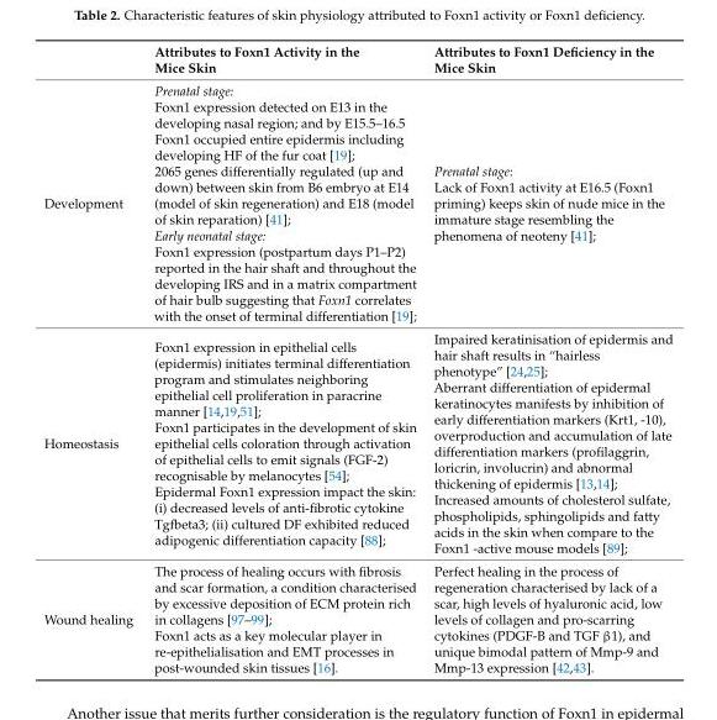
<table><thead><tr><td></td><td>Attributes to Foxn1 Activity in the Mice Skin</td><td>Attributes to Foxn1 Deficiency in the Mice Skin</td></tr></thead><tbody><tr><td>Development</td><td>Prenatal stage: Foxn1 expression detected on E13 in the developing nasal region; and by E15.5–16.5 Foxn1 occupied entire epidermis including developing HF of the fur coat [19]; 2065 genes differentially regulated (up and down) between skin from B6 embryo at E14 (model of skin regeneration) and E18 (model of skin reparation) [41]; Early neonatal stage: Foxn1 expression (postpartum days P1–P2) reported in the hair shaft and throughout the developing IRS and in a matrix compartment of hair bulb suggesting that Foxn1 correlates with the onset of terminal differentiation [19];</td><td>Prenatal stage: Lack of Foxn1 activity at E16.5 (Foxn1 priming) keeps skin of nude mice in the immature stage resembling the phenomena of neoteny [41];</td></tr><tr><td>Homeostasis</td><td>Foxn1 expression in epithelial cells (epidermis) initiates terminal differentiation program and stimulates neighboring epithelial cell proliferation in paracrine manner [14,19,51]; Foxn1 participates in the development of skin epithelial cells coloration through activation of epithelial cells to emit signals (FGF-2) recognisable by melanocytes [54]; Epidermal Foxn1 expression impact the skin: (i) decreased levels of anti-fibrotic cytokine Tgfbeta3; (ii) cultured DF exhibited reduced adipogenic differentiation capacity [88];</td><td>Impaired keratinisation of epidermis and hair shaft results in “hairless phenotype” [24,25]; Aberrant differentiation of epidermal keratinocytes manifests by inhibition of early differentiation markers (Krt1, -10), overproduction and accumulation of late differentiation markers (profilaggrin, loricrin, involucrin) and abnormal thickening of epidermis [13,14]; Increased amounts of cholesterol sulfate, phospholipids, sphingolipids and fatty acids in the skin when compare to the Foxn1 -active mouse models [89];</td></tr><tr><td>Wound healing</td><td>The process of healing occurs with fibrosis and scar formation, a condition characterised by excessive deposition of ECM protein rich in collagens [97–99]; Foxn1 acts as a key molecular player in re-epithelialisation and EMT processes in post-wounded skin tissues [16].</td><td>Perfect healing in the process of regeneration characterised by lack of a scar, high levels of hyaluronic acid, low levels of collagen and pro-scarring cytokines (PDGF-B and TGF β1), and unique bimodal pattern of Mmp-9 and Mmp-13 expression [42,43].</td></tr></tbody></table>